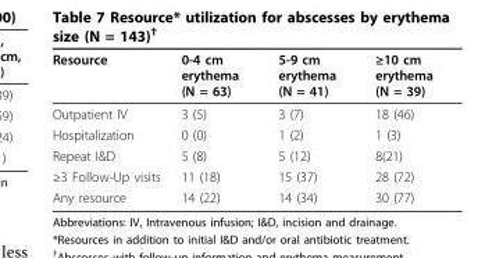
<table><thead><tr><td>Resource</td><td>0-4 cm erythema (N = 63)</td><td>5-9 cm erythema (N = 41)</td><td>≥10 cm erythema (N = 39)</td></tr></thead><tbody><tr><td>Outpatient IV</td><td>3 (5)</td><td>3 (7)</td><td>18 (46)</td></tr><tr><td>Hospitalization</td><td>0 (0)</td><td>1 (2)</td><td>1 (3)</td></tr><tr><td>Repeat I&amp;D</td><td>5 (8)</td><td>5 (12)</td><td>8(21)</td></tr><tr><td>≥3 Follow-Up visits</td><td>11 (18)</td><td>15 (37)</td><td>28 (72)</td></tr><tr><td>Any resource</td><td>14 (22)</td><td>14 (34)</td><td>30 (77)</td></tr></tbody></table>